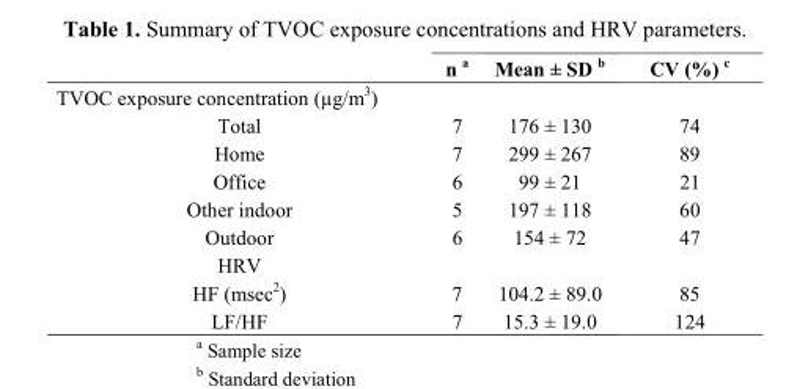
<table><thead><tr><td></td><td>n a</td><td>Mean ± SD b</td><td>CV (%) c</td></tr></thead><tbody><tr><td colspan="4">TVOC exposure concentration (µg/m<sup>3</sup>)</td></tr><tr><td>Total</td><td>7</td><td>176 ± 130</td><td>74</td></tr><tr><td>Home</td><td>7</td><td>299 ± 267</td><td>89</td></tr><tr><td>Office</td><td>6</td><td>99 ± 21</td><td>21</td></tr><tr><td>Other indoor</td><td>5</td><td>197 ± 118</td><td>60</td></tr><tr><td>Outdoor</td><td>6</td><td>154 ± 72</td><td>47</td></tr><tr><td colspan="4">HRV</td></tr><tr><td>HF (msec<sup>2</sup>)</td><td>7</td><td>104.2 ± 89.0</td><td>85</td></tr><tr><td>LF/HF</td><td>7</td><td>15.3 ± 19.0</td><td>124</td></tr></tbody></table>